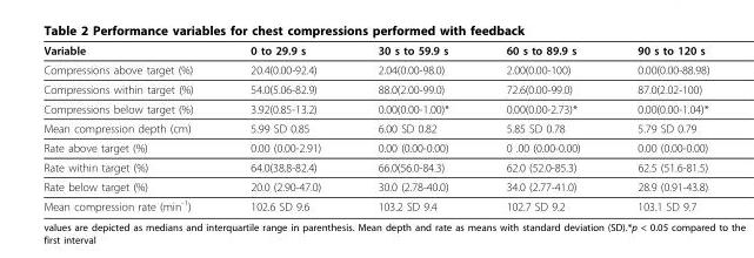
<table><thead><tr><td>Variable</td><td>0 to 29.9 s</td><td>30 s to 59.9 s</td><td>60 s to 89.9 s</td><td>90 s to 120 s</td></tr></thead><tbody><tr><td>Compressions above target (%)</td><td>20.4(0.00-92.4)</td><td>2.04(0.00-98.0)</td><td>2.00(0.00-100)</td><td>0.00(0.00-88.98)</td></tr><tr><td>Compressions within target (%)</td><td>54.0(5.06-82.9)</td><td>88.0(2.00-99.0)</td><td>72.6(0.00-99.0)</td><td>87.0(2.02-100)</td></tr><tr><td>Compressions below target (%)</td><td>3.92(0.85-13.2)</td><td>0.00(0.00-1.00)*</td><td>0.00(0.00-2.73)*</td><td>0.00(0.00-1.04)*</td></tr><tr><td>Mean compression depth (cm)</td><td>5.99 SD 0.85</td><td>6.00 SD 0.82</td><td>5.85 SD 0.78</td><td>5.79 SD 0.79</td></tr><tr><td>Rate above target (%)</td><td>0.00 (0.00-2.91)</td><td>0.00 (0.00-0.00)</td><td>0 .00 (0.00-0.00)</td><td>0.00 (0.00-0.00)</td></tr><tr><td>Rate within target (%)</td><td>64.0(38.8-82.4)</td><td>66.0(56.0-84.3)</td><td>62.0 (52.0-85.3)</td><td>62.5 (51.6-81.5)</td></tr><tr><td>Rate below target (%)</td><td>20.0 (2.90-47.0)</td><td>30.0 (2.78-40.0)</td><td>34.0 (2.77-41.0)</td><td>28.9 (0.91-43.8)</td></tr><tr><td>Mean compression rate (min<sup>-1</sup>)</td><td>102.6 SD 9.6</td><td>103.2 SD 9.4</td><td>102.7 SD 9.2</td><td>103.1 SD 9.7</td></tr></tbody></table>